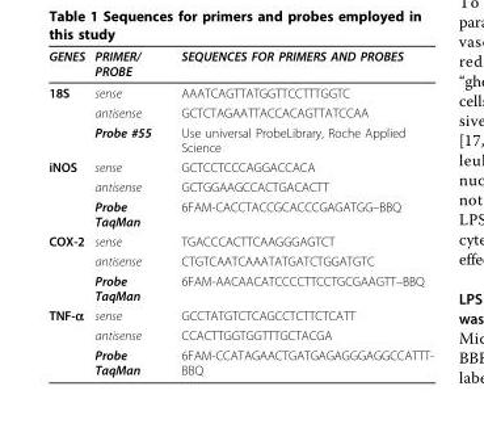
<table><thead><tr><td>GENES</td><td>PRIMER/ PROBE</td><td>SEQUENCES FOR PRIMERS AND PROBES</td></tr></thead><tbody><tr><td rowspan="3">18S</td><td>sense</td><td>AAATCAGTTATGGTTCCTTTGGTC</td></tr><tr><td>antisense</td><td>GCTCTAGAATTACCACAGTTATCCAA</td></tr><tr><td>Probe #55</td><td>Use universal ProbeLibrary, Roche Applied Science</td></tr><tr><td rowspan="3">iNOS</td><td>sense</td><td>GCTCCTCCCAGGACCACA</td></tr><tr><td>antisense</td><td>GCTGGAAGCCACTGACACTT</td></tr><tr><td>Probe TaqMan</td><td>6FAM-CACCTACCGCACCCGAGATGG–BBQ</td></tr><tr><td rowspan="3">COX-2</td><td>sense</td><td>TGACCCACTTCAAGGGAGTCT</td></tr><tr><td>antisense</td><td>CTGTCAATCAAATATGATCTGGATGTC</td></tr><tr><td>Probe TaqMan</td><td>6FAM-AACAACATCCCCTTCCTGCGAAGTT–BBQ</td></tr><tr><td rowspan="3">TNF-α</td><td>sense</td><td>GCCTATGTCTCAGCCTCTTCTCATT</td></tr><tr><td>antisense</td><td>CCACTTGGTGGTTTGCTACGA</td></tr><tr><td>Probe TaqMan</td><td>6FAM-CCATAGAACTGATGAGAGGGAGGCCATTT- BBQ</td></tr></tbody></table>